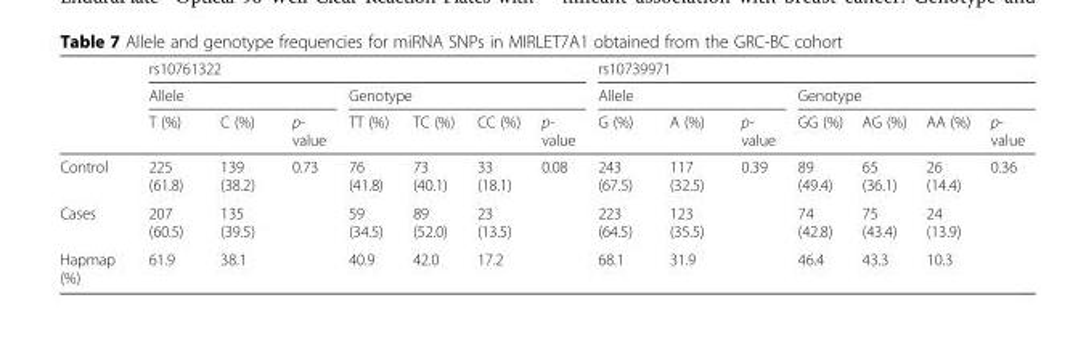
<table><thead><tr><td rowspan="3"></td><td colspan="7">rs10761322</td><td colspan="7">rs10739971</td></tr><tr><td colspan="3">Allele</td><td colspan="4">Genotype</td><td colspan="3">Allele</td><td colspan="4">Genotype</td></tr><tr><td>T (%)</td><td>C (%)</td><td>p- value</td><td>TT (%)</td><td>TC (%)</td><td>CC (%)</td><td>p- value</td><td>G (%)</td><td>A (%)</td><td>p- value</td><td>GG (%)</td><td>AG (%)</td><td>AA (%)</td><td>p- value</td></tr></thead><tbody><tr><td>Control</td><td>225 (61.8)</td><td>139 (38.2)</td><td rowspan="2">0.73</td><td>76 (41.8)</td><td>73 (40.1)</td><td>33 (18.1)</td><td rowspan="2">0.08</td><td>243 (67.5)</td><td>117 (32.5)</td><td rowspan="2">0.39</td><td>89 (49.4)</td><td>65 (36.1)</td><td>26 (14.4)</td><td rowspan="2">0.36</td></tr><tr><td>Cases</td><td>207 (60.5)</td><td>135 (39.5)</td><td>59 (34.5)</td><td>89 (52.0)</td><td>23 (13.5)</td><td>223 (64.5)</td><td>123 (35.5)</td><td>74 (42.8)</td><td>75 (43.4)</td><td>24 (13.9)</td></tr><tr><td>Hapmap (%)</td><td>61.9</td><td>38.1</td><td></td><td>40.9</td><td>42.0</td><td>17.2</td><td></td><td>68.1</td><td>31.9</td><td></td><td>46.4</td><td>43.3</td><td>10.3</td><td></td></tr></tbody></table>